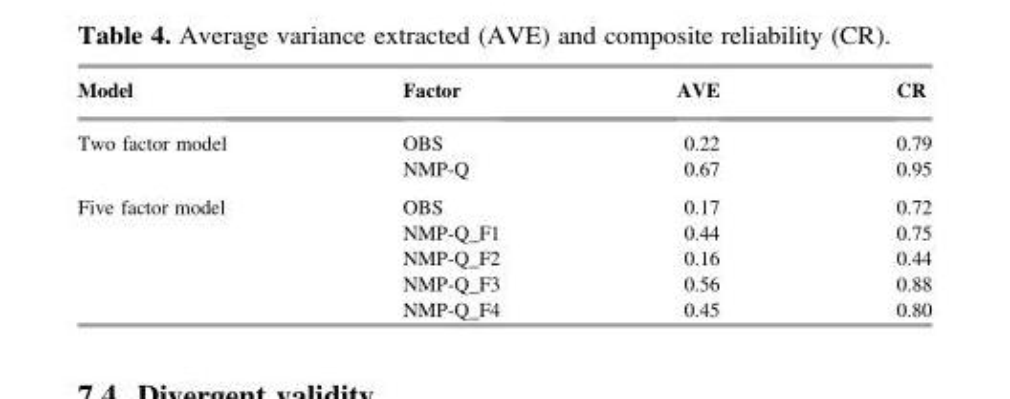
<table><thead><tr><td>Model</td><td>Factor</td><td>AVE</td><td>CR</td></tr></thead><tbody><tr><td rowspan="2">Two factor model</td><td>OBS</td><td>0.22</td><td>0.79</td></tr><tr><td>NMP-Q</td><td>0.67</td><td>0.95</td></tr><tr><td rowspan="5">Five factor model</td><td>OBS</td><td>0.17</td><td>0.72</td></tr><tr><td>NMP-Q_F1</td><td>0.44</td><td>0.75</td></tr><tr><td>NMP-Q_F2</td><td>0.16</td><td>0.44</td></tr><tr><td>NMP-Q_F3</td><td>0.56</td><td>0.88</td></tr><tr><td>NMP-Q_F4</td><td>0.45</td><td>0.80</td></tr></tbody></table>